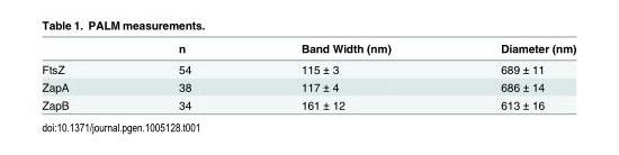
<table><thead><tr><td></td><td>n</td><td>Band Width (nm)</td><td>Diameter (nm)</td></tr></thead><tbody><tr><td>FtsZ</td><td>54</td><td>115 ± 3</td><td>689 ± 11</td></tr><tr><td>ZapA</td><td>38</td><td>117 ± 4</td><td>686 ± 14</td></tr><tr><td>ZapB</td><td>34</td><td>161 ± 12</td><td>613 ± 16</td></tr></tbody></table>